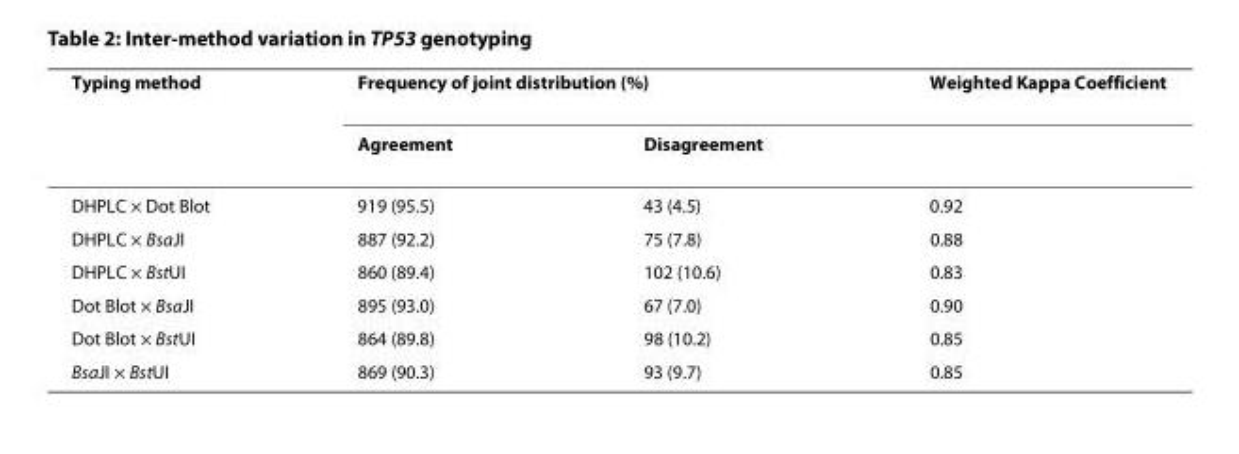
<table><thead><tr><td rowspan="2">Typing method</td><td colspan="2">Frequency of joint distribution (%)</td><td rowspan="2">Weighted Kappa Coefficient</td></tr><tr><td>Agreement</td><td>Disagreement</td></tr></thead><tbody><tr><td>DHPLC × Dot Blot</td><td>919 (95.5)</td><td>43 (4.5)</td><td>0.92</td></tr><tr><td>DHPLC × BsaJI</td><td>887 (92.2)</td><td>75 (7.8)</td><td>0.88</td></tr><tr><td>DHPLC × BstUI</td><td>860 (89.4)</td><td>102 (10.6)</td><td>0.83</td></tr><tr><td>Dot Blot × BsaJI</td><td>895 (93.0)</td><td>67 (7.0)</td><td>0.90</td></tr><tr><td>Dot Blot × BstUI</td><td>864 (89.8)</td><td>98 (10.2)</td><td>0.85</td></tr><tr><td>BsaJI × BstUI</td><td>869 (90.3)</td><td>93 (9.7)</td><td>0.85</td></tr></tbody></table>